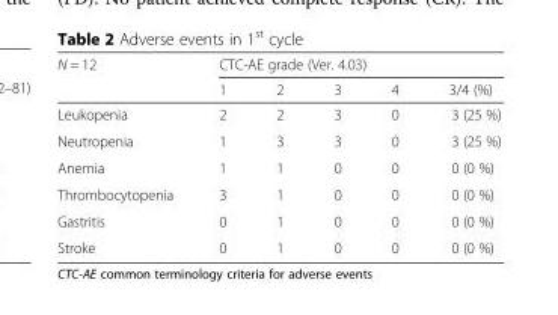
<table><thead><tr><td rowspan="2">N = 12</td><td colspan="5">CTC-AE grade (Ver. 4.03)</td></tr><tr><td>1</td><td>2</td><td>3</td><td>4</td><td>3/4 (%)</td></tr></thead><tbody><tr><td>Leukopenia</td><td>2</td><td>2</td><td>3</td><td>0</td><td>3 (25 %)</td></tr><tr><td>Neutropenia</td><td>1</td><td>3</td><td>3</td><td>0</td><td>3 (25 %)</td></tr><tr><td>Anemia</td><td>1</td><td>1</td><td>0</td><td>0</td><td>0 (0 %)</td></tr><tr><td>Thrombocytopenia</td><td>3</td><td>1</td><td>0</td><td>0</td><td>0 (0 %)</td></tr><tr><td>Gastritis</td><td>0</td><td>1</td><td>0</td><td>0</td><td>0 (0 %)</td></tr><tr><td>Stroke</td><td>0</td><td>1</td><td>0</td><td>0</td><td>0 (0 %)</td></tr></tbody></table>